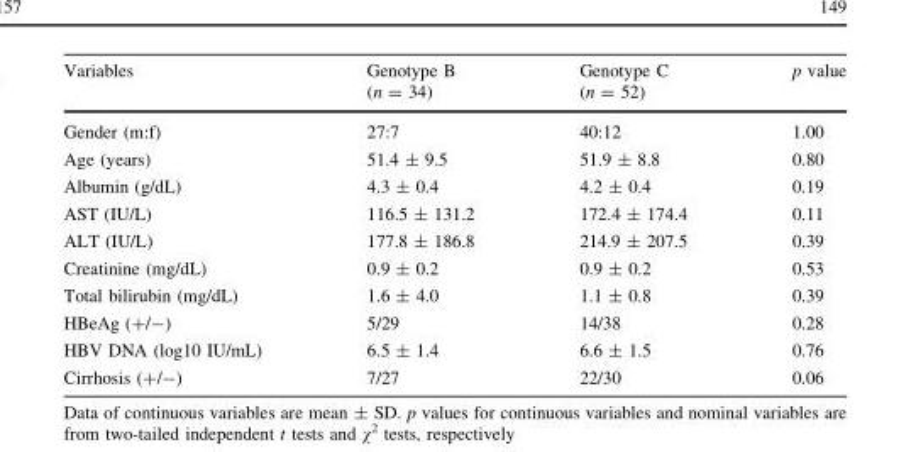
<table><thead><tr><td>Variables</td><td>Genotype B (n = 34)</td><td>Genotype C (n = 52)</td><td>p value</td></tr></thead><tbody><tr><td>Gender (m:f)</td><td>27:7</td><td>40:12</td><td>1.00</td></tr><tr><td>Age (years)</td><td>51.4 ± 9.5</td><td>51.9 ± 8.8</td><td>0.80</td></tr><tr><td>Albumin (g/dL)</td><td>4.3 ± 0.4</td><td>4.2 ± 0.4</td><td>0.19</td></tr><tr><td>AST (IU/L)</td><td>116.5 ± 131.2</td><td>172.4 ± 174.4</td><td>0.11</td></tr><tr><td>ALT (IU/L)</td><td>177.8 ± 186.8</td><td>214.9 ± 207.5</td><td>0.39</td></tr><tr><td>Creatinine (mg/dL)</td><td>0.9 ± 0.2</td><td>0.9 ± 0.2</td><td>0.53</td></tr><tr><td>Total bilirubin (mg/dL)</td><td>1.6 ± 4.0</td><td>1.1 ± 0.8</td><td>0.39</td></tr><tr><td>HBeAg (+/-)</td><td>5/29</td><td>14/38</td><td>0.28</td></tr><tr><td>HBV DNA (log10 IU/mL)</td><td>6.5 ± 1.4</td><td>6.6 ± 1.5</td><td>0.76</td></tr><tr><td>Cirrhosis (+/-)</td><td>7/27</td><td>22/30</td><td>0.06</td></tr></tbody></table>